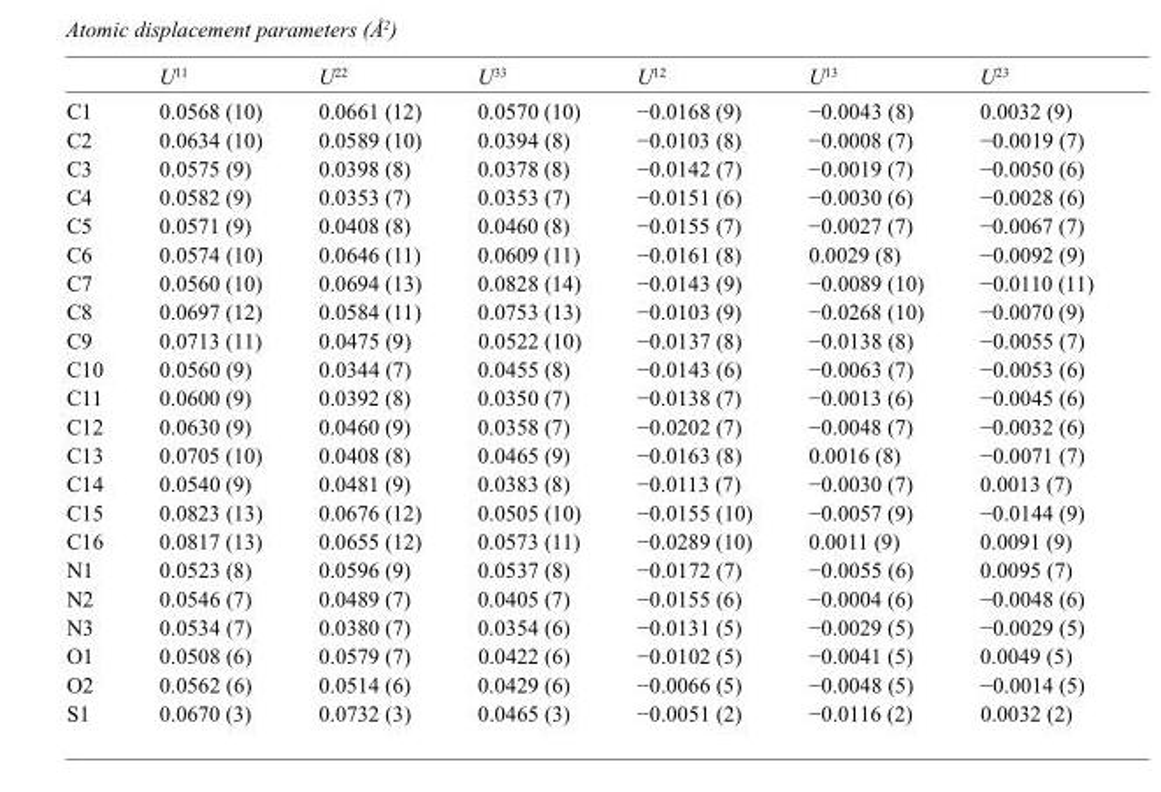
<table><thead><tr><td></td><td>U<sup>11</sup></td><td>U<sup>22</sup></td><td>U<sup>33</sup></td><td>U<sup>12</sup></td><td>U<sup>13</sup></td><td>U<sup>23</sup></td></tr></thead><tbody><tr><td>C1</td><td>0.0568 (10)</td><td>0.0661 (12)</td><td>0.0570 (10)</td><td>−0.0168 (9)</td><td>−0.0043 (8)</td><td>0.0032 (9)</td></tr><tr><td>C2</td><td>0.0634 (10)</td><td>0.0589 (10)</td><td>0.0394 (8)</td><td>−0.0103 (8)</td><td>−0.0008 (7)</td><td>−0.0019 (7)</td></tr><tr><td>C3</td><td>0.0575 (9)</td><td>0.0398 (8)</td><td>0.0378 (8)</td><td>−0.0142 (7)</td><td>−0.0019 (7)</td><td>−0.0050 (6)</td></tr><tr><td>C4</td><td>0.0582 (9)</td><td>0.0353 (7)</td><td>0.0353 (7)</td><td>−0.0151 (6)</td><td>−0.0030 (6)</td><td>−0.0028 (6)</td></tr><tr><td>C5</td><td>0.0571 (9)</td><td>0.0408 (8)</td><td>0.0460 (8)</td><td>−0.0155 (7)</td><td>−0.0027 (7)</td><td>−0.0067 (7)</td></tr><tr><td>C6</td><td>0.0574 (10)</td><td>0.0646 (11)</td><td>0.0609 (11)</td><td>−0.0161 (8)</td><td>0.0029 (8)</td><td>−0.0092 (9)</td></tr><tr><td>C7</td><td>0.0560 (10)</td><td>0.0694 (13)</td><td>0.0828 (14)</td><td>−0.0143 (9)</td><td>−0.0089 (10)</td><td>−0.0110 (11)</td></tr><tr><td>C8</td><td>0.0697 (12)</td><td>0.0584 (11)</td><td>0.0753 (13)</td><td>−0.0103 (9)</td><td>−0.0268 (10)</td><td>−0.0070 (9)</td></tr><tr><td>C9</td><td>0.0713 (11)</td><td>0.0475 (9)</td><td>0.0522 (10)</td><td>−0.0137 (8)</td><td>−0.0138 (8)</td><td>−0.0055 (7)</td></tr><tr><td>C10</td><td>0.0560 (9)</td><td>0.0344 (7)</td><td>0.0455 (8)</td><td>−0.0143 (6)</td><td>−0.0063 (7)</td><td>−0.0053 (6)</td></tr><tr><td>C11</td><td>0.0600 (9)</td><td>0.0392 (8)</td><td>0.0350 (7)</td><td>−0.0138 (7)</td><td>−0.0013 (6)</td><td>−0.0045 (6)</td></tr><tr><td>C12</td><td>0.0630 (9)</td><td>0.0460 (9)</td><td>0.0358 (7)</td><td>−0.0202 (7)</td><td>−0.0048 (7)</td><td>−0.0032 (6)</td></tr><tr><td>C13</td><td>0.0705 (10)</td><td>0.0408 (8)</td><td>0.0465 (9)</td><td>−0.0163 (8)</td><td>0.0016 (8)</td><td>−0.0071 (7)</td></tr><tr><td>C14</td><td>0.0540 (9)</td><td>0.0481 (9)</td><td>0.0383 (8)</td><td>−0.0113 (7)</td><td>−0.0030 (7)</td><td>0.0013 (7)</td></tr><tr><td>C15</td><td>0.0823 (13)</td><td>0.0676 (12)</td><td>0.0505 (10)</td><td>−0.0155 (10)</td><td>−0.0057 (9)</td><td>−0.0144 (9)</td></tr><tr><td>C16</td><td>0.0817 (13)</td><td>0.0655 (12)</td><td>0.0573 (11)</td><td>−0.0289 (10)</td><td>0.0011 (9)</td><td>0.0091 (9)</td></tr><tr><td>N1</td><td>0.0523 (8)</td><td>0.0596 (9)</td><td>0.0537 (8)</td><td>−0.0172 (7)</td><td>−0.0055 (6)</td><td>0.0095 (7)</td></tr><tr><td>N2</td><td>0.0546 (7)</td><td>0.0489 (7)</td><td>0.0405 (7)</td><td>−0.0155 (6)</td><td>−0.0004 (6)</td><td>−0.0048 (6)</td></tr><tr><td>N3</td><td>0.0534 (7)</td><td>0.0380 (7)</td><td>0.0354 (6)</td><td>−0.0131 (5)</td><td>−0.0029 (5)</td><td>−0.0029 (5)</td></tr><tr><td>O1</td><td>0.0508 (6)</td><td>0.0579 (7)</td><td>0.0422 (6)</td><td>−0.0102 (5)</td><td>−0.0041 (5)</td><td>0.0049 (5)</td></tr><tr><td>O2</td><td>0.0562 (6)</td><td>0.0514 (6)</td><td>0.0429 (6)</td><td>−0.0066 (5)</td><td>−0.0048 (5)</td><td>−0.0014 (5)</td></tr><tr><td>S1</td><td>0.0670 (3)</td><td>0.0732 (3)</td><td>0.0465 (3)</td><td>−0.0051 (2)</td><td>−0.0116 (2)</td><td>0.0032 (2)</td></tr></tbody></table>